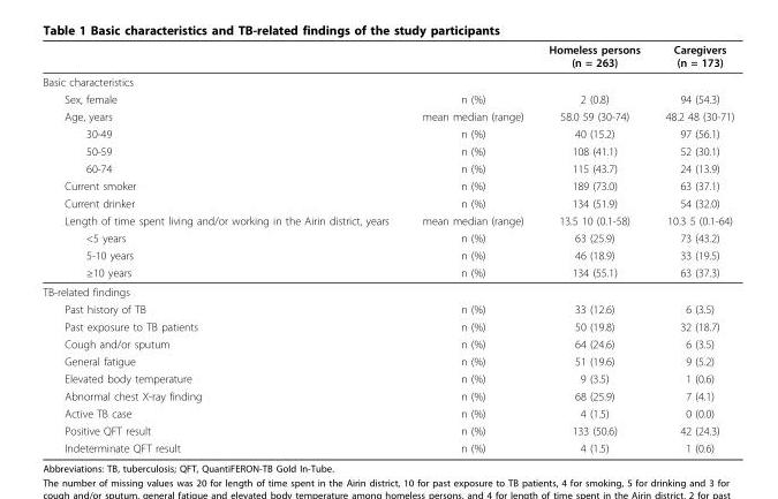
<table><thead><tr><td></td><td></td><td>Homeless persons (n = 263)</td><td>Caregivers (n = 173)</td></tr></thead><tbody><tr><td colspan="4">Basic characteristics</td></tr><tr><td>Sex, female</td><td>n (%)</td><td>2 (0.8)</td><td>94 (54.3)</td></tr><tr><td>Age, years</td><td>mean median (range)</td><td>58.0 59 (30-74)</td><td>48.2 48 (30-71)</td></tr><tr><td>30-49</td><td>n (%)</td><td>40 (15.2)</td><td>97 (56.1)</td></tr><tr><td>50-59</td><td>n (%)</td><td>108 (41.1)</td><td>52 (30.1)</td></tr><tr><td>60-74</td><td>n (%)</td><td>115 (43.7)</td><td>24 (13.9)</td></tr><tr><td>Current smoker</td><td>n (%)</td><td>189 (73.0)</td><td>63 (37.1)</td></tr><tr><td>Current drinker</td><td>n (%)</td><td>134 (51.9)</td><td>54 (32.0)</td></tr><tr><td>Length of time spent living and/or working in the Airin district, years</td><td>mean median (range)</td><td>13.5 10 (0.1-58)</td><td>10.3 5 (0.1-64)</td></tr><tr><td>&lt;5 years</td><td>n (%)</td><td>63 (25.9)</td><td>73 (43.2)</td></tr><tr><td>5-10 years</td><td>n (%)</td><td>46 (18.9)</td><td>33 (19.5)</td></tr><tr><td>≥10 years</td><td>n (%)</td><td>134 (55.1)</td><td>63 (37.3)</td></tr><tr><td colspan="4">TB-related findings</td></tr><tr><td>Past history of TB</td><td>n (%)</td><td>33 (12.6)</td><td>6 (3.5)</td></tr><tr><td>Past exposure to TB patients</td><td>n (%)</td><td>50 (19.8)</td><td>32 (18.7)</td></tr><tr><td>Cough and/or sputum</td><td>n (%)</td><td>64 (24.6)</td><td>6 (3.5)</td></tr><tr><td>General fatigue</td><td>n (%)</td><td>51 (19.6)</td><td>9 (5.2)</td></tr><tr><td>Elevated body temperature</td><td>n (%)</td><td>9 (3.5)</td><td>1 (0.6)</td></tr><tr><td>Abnormal chest X-ray finding</td><td>n (%)</td><td>68 (25.9)</td><td>7 (4.1)</td></tr><tr><td>Active TB case</td><td>n (%)</td><td>4 (1.5)</td><td>0 (0.0)</td></tr><tr><td>Positive QFT result</td><td>n (%)</td><td>133 (50.6)</td><td>42 (24.3)</td></tr><tr><td>Indeterminate QFT result</td><td>n (%)</td><td>4 (1.5)</td><td>1 (0.6)</td></tr></tbody></table>